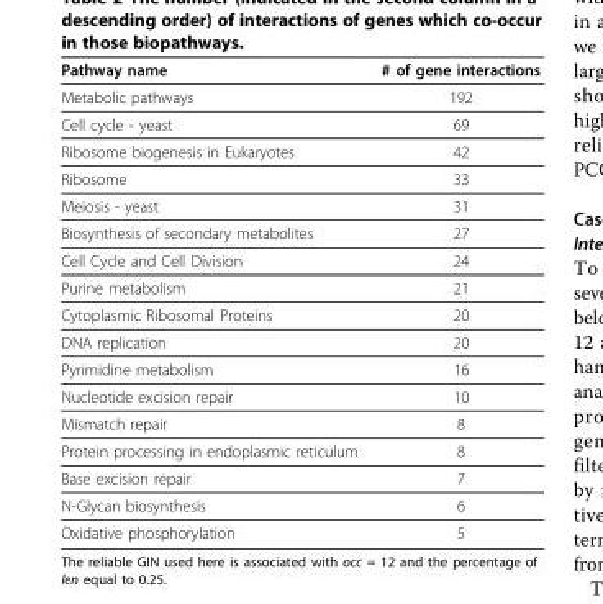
<table><thead><tr><td>Pathway name</td><td># of gene interactions</td></tr></thead><tbody><tr><td>Metabolic pathways</td><td>192</td></tr><tr><td>Cell cycle - yeast</td><td>69</td></tr><tr><td>Ribosome biogenesis in Eukaryotes</td><td>42</td></tr><tr><td>Ribosome</td><td>33</td></tr><tr><td>Meiosis - yeast</td><td>31</td></tr><tr><td>Biosynthesis of secondary metabolites</td><td>27</td></tr><tr><td>Cell Cycle and Cell Division</td><td>24</td></tr><tr><td>Purine metabolism</td><td>21</td></tr><tr><td>Cytoplasmic Ribosomal Proteins</td><td>20</td></tr><tr><td>DNA replication</td><td>20</td></tr><tr><td>Pyrimidine metabolism</td><td>16</td></tr><tr><td>Nucleotide excision repair</td><td>10</td></tr><tr><td>Mismatch repair</td><td>8</td></tr><tr><td>Protein processing in endoplasmic reticulum</td><td>8</td></tr><tr><td>Base excision repair</td><td>7</td></tr><tr><td>N-Glycan biosynthesis</td><td>6</td></tr><tr><td>Oxidative phosphorylation</td><td>5</td></tr></tbody></table>